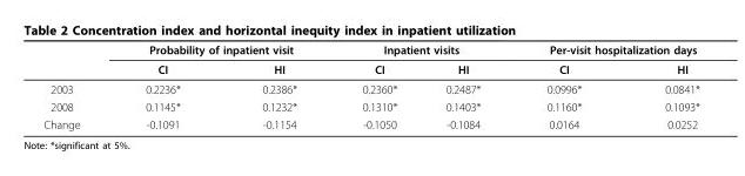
<table><thead><tr><td rowspan="2"></td><td colspan="2">Probability of inpatient visit</td><td colspan="2">Inpatient visits</td><td colspan="2">Per-visit hospitalization days</td></tr><tr><td>CI</td><td>HI</td><td>CI</td><td>HI</td><td>CI</td><td>HI</td></tr></thead><tbody><tr><td>2003</td><td>0.2236*</td><td>0.2386*</td><td>0.2360*</td><td>0.2487*</td><td>0.0996*</td><td>0.0841*</td></tr><tr><td>2008</td><td>0.1145*</td><td>0.1232*</td><td>0.1310*</td><td>0.1403*</td><td>0.1160*</td><td>0.1093*</td></tr><tr><td>Change</td><td>-0.1091</td><td>-0.1154</td><td>-0.1050</td><td>-0.1084</td><td>0.0164</td><td>0.0252</td></tr></tbody></table>